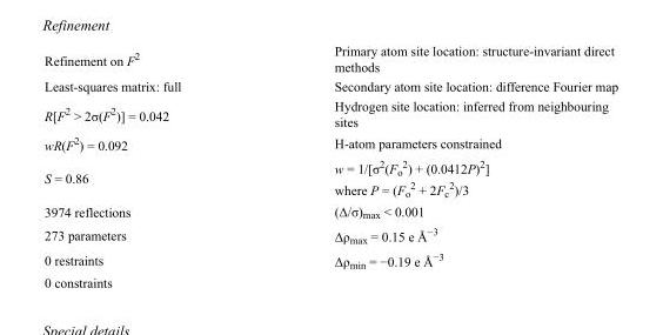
<table><tbody><tr><td>Refinement on F<sup>2</sup></td><td>Primary atom site location: structure-invariant direct methods</td></tr><tr><td>Least-squares matrix: full</td><td>Secondary atom site location: difference Fourier map</td></tr><tr><td>R[F<sup>2</sup> &gt; 2σ(F<sup>2</sup>)] = 0.042</td><td>Hydrogen site location: inferred from neighbouring sites</td></tr><tr><td>wR(F<sup>2</sup>) = 0.092</td><td>H-atom parameters constrained</td></tr><tr><td>S = 0.86</td><td>w = 1/[σ<sup>2</sup>(F<sub>o</sub> <sup>2</sup>) + (0.0412P)<sup>2</sup>] where P = (F<sub>o</sub> <sup>2</sup> + 2F<sub>c</sub> <sup>2</sup>)/3</td></tr><tr><td>3974 reflections</td><td>(Δ/σ)<sub>max</sub> &lt; 0.001</td></tr><tr><td>273 parameters</td><td>Δρ<sub>max</sub> = 0.15 e Å<sup>−3</sup></td></tr><tr><td>0 restraints</td><td>Δρ<sub>min</sub> = −0.19 e Å<sup>−3</sup></td></tr><tr><td>0 constraints</td><td></td></tr></tbody></table>